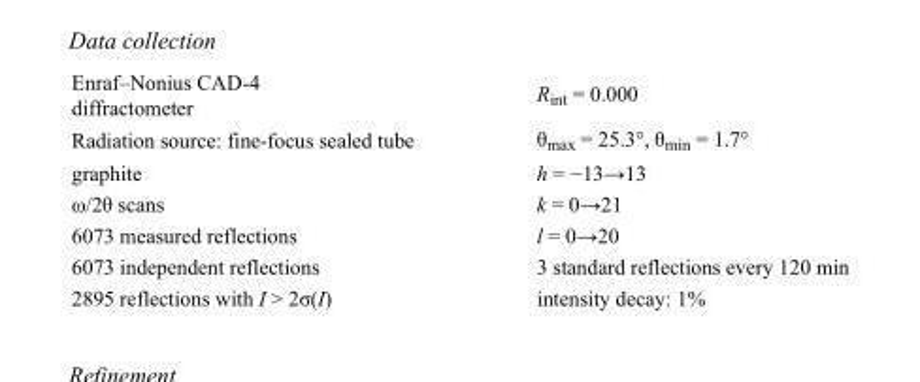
<table><tbody><tr><td>Enraf–Nonius CAD-4 diffractometer</td><td>Rint = 0.000</td></tr><tr><td>Radiation source: fine-focus sealed tube</td><td>θ<sub>max</sub> = 25.3°, θ<sub>min</sub> = 1.7°</td></tr><tr><td>graphite</td><td>h = −13→13</td></tr><tr><td>ω/2θ scans</td><td>k = 0→21</td></tr><tr><td>6073 measured reflections</td><td>l = 0→20</td></tr><tr><td>6073 independent reflections</td><td>3 standard reflections every 120 min</td></tr><tr><td>2895 reflections with I &gt; 2σ(I)</td><td>intensity decay: 1%</td></tr></tbody></table>